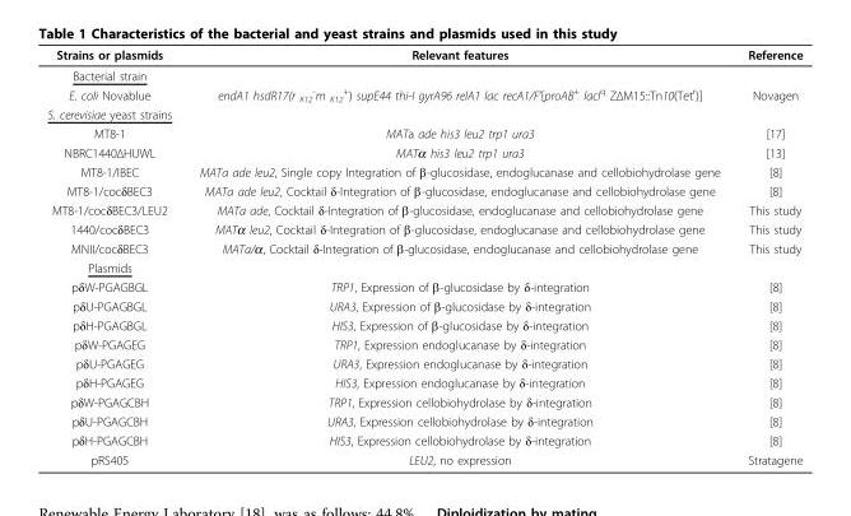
<table><thead><tr><td>Strains or plasmids</td><td>Relevant features</td><td>Reference</td></tr></thead><tbody><tr><td colspan="3">Bacterial strain</td></tr><tr><td>E. coli Novablue</td><td>endA1 hsdR17(r <sub>K12</sub> <sup>-</sup>m <sub>K12</sub> <sup>+</sup>) supE44 thi-I gyrA96 relA1 lac recA1/F’[proAB<sup>+</sup> lacI<sup>q</sup> ZΔM15::Tn10(Tet<sup>r</sup>)]</td><td>Novagen</td></tr><tr><td colspan="3">S. cerevisiae yeast strains</td></tr><tr><td>MT8-1</td><td>MATa ade his3 leu2 trp1 ura3</td><td>[17]</td></tr><tr><td>NBRC1440ΔHUWL</td><td>MATα his3 leu2 trp1 ura3</td><td>[13]</td></tr><tr><td>MT8-1/IBEC</td><td>MATa ade leu2, Single copy Integration of β-glucosidase, endoglucanase and cellobiohydrolase gene</td><td>[8]</td></tr><tr><td>MT8-1/cocδBEC3</td><td>MATa ade leu2, Cocktail δ-Integration of β-glucosidase, endoglucanase and cellobiohydrolase gene</td><td>[8]</td></tr><tr><td>MT8-1/cocδBEC3/LEU2</td><td>MATa ade, Cocktail δ-Integration of β-glucosidase, endoglucanase and cellobiohydrolase gene</td><td>This study</td></tr><tr><td>1440/cocδBEC3</td><td>MATα leu2, Cocktail δ-Integration of β-glucosidase, endoglucanase and cellobiohydrolase gene</td><td>This study</td></tr><tr><td>MNII/cocδBEC3</td><td>MATa/α, Cocktail δ-Integration of β-glucosidase, endoglucanase and cellobiohydrolase gene</td><td>This study</td></tr><tr><td colspan="3">Plasmids</td></tr><tr><td>pδW-PGAGBGL</td><td>TRP1, Expression of β-glucosidase by δ-integration</td><td>[8]</td></tr><tr><td>pδU-PGAGBGL</td><td>URA3, Expression of β-glucosidase by δ-integration</td><td>[8]</td></tr><tr><td>pδH-PGAGBGL</td><td>HIS3, Expression of β-glucosidase by δ-integration</td><td>[8]</td></tr><tr><td>pδW-PGAGEG</td><td>TRP1, Expression endoglucanase by δ-integration</td><td>[8]</td></tr><tr><td>pδU-PGAGEG</td><td>URA3, Expression endoglucanase by δ-integration</td><td>[8]</td></tr><tr><td>pδH-PGAGEG</td><td>HIS3, Expression endoglucanase by δ-integration</td><td>[8]</td></tr><tr><td>pδW-PGAGCBH</td><td>TRP1, Expression cellobiohydrolase by δ-integration</td><td>[8]</td></tr><tr><td>pδU-PGAGCBH</td><td>URA3, Expression cellobiohydrolase by δ-integration</td><td>[8]</td></tr><tr><td>pδH-PGAGCBH</td><td>HIS3, Expression cellobiohydrolase by δ-integration</td><td>[8]</td></tr><tr><td>pRS405</td><td>LEU2, no expression</td><td>Stratagene</td></tr></tbody></table>